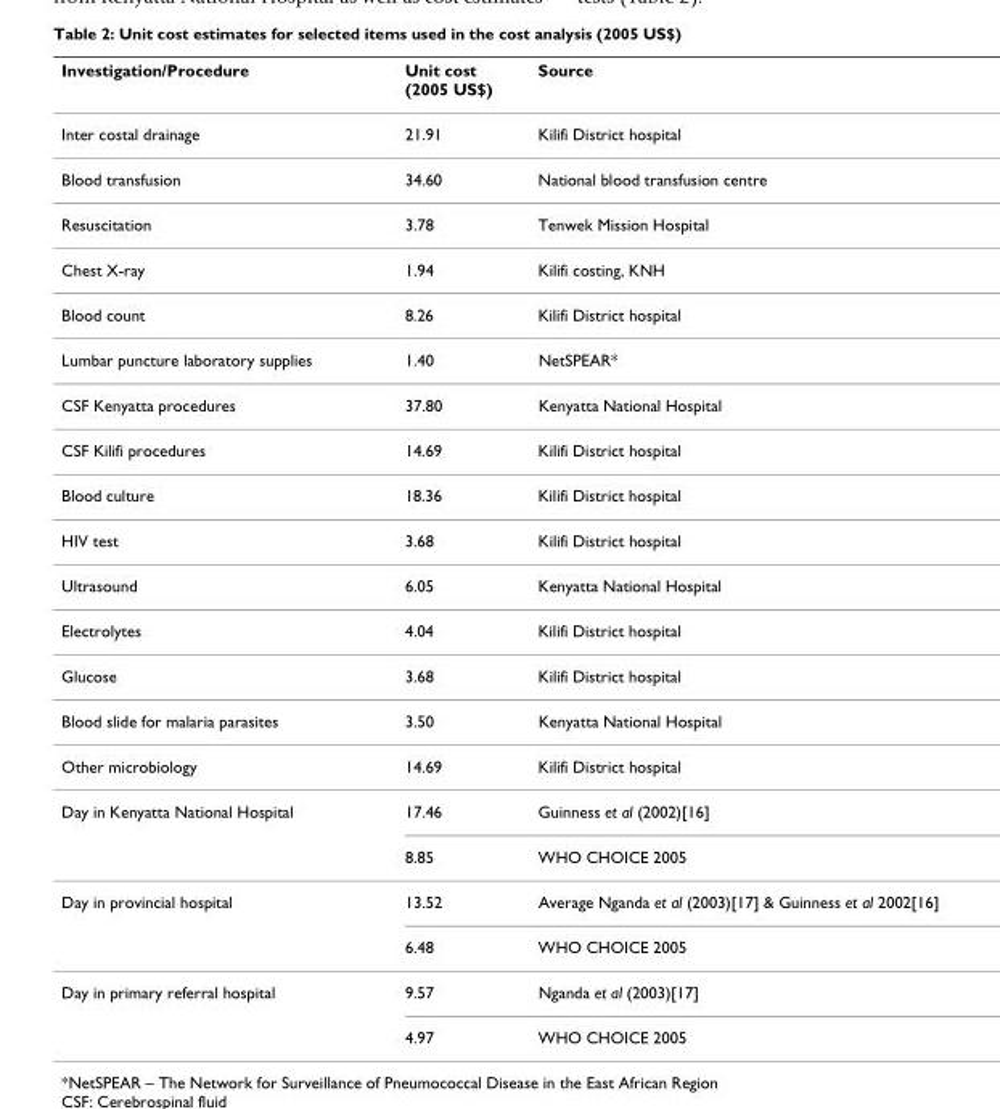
<table><thead><tr><td>Investigation/Procedure</td><td>Unit cost (2005 US$)</td><td>Source</td></tr></thead><tbody><tr><td>Inter costal drainage</td><td>21.91</td><td>Kilifi District hospital</td></tr><tr><td>Blood transfusion</td><td>34.60</td><td>National blood transfusion centre</td></tr><tr><td>Resuscitation</td><td>3.78</td><td>Tenwek Mission Hospital</td></tr><tr><td>Chest X-ray</td><td>1.94</td><td>Kilifi costing, KNH</td></tr><tr><td>Blood count</td><td>8.26</td><td>Kilifi District hospital</td></tr><tr><td>Lumbar puncture laboratory supplies</td><td>1.40</td><td>NetSPEAR*</td></tr><tr><td>CSF Kenyatta procedures</td><td>37.80</td><td>Kenyatta National Hospital</td></tr><tr><td>CSF Kilifi procedures</td><td>14.69</td><td>Kilifi District hospital</td></tr><tr><td>Blood culture</td><td>18.36</td><td>Kilifi District hospital</td></tr><tr><td>HIV test</td><td>3.68</td><td>Kilifi District hospital</td></tr><tr><td>Ultrasound</td><td>6.05</td><td>Kenyatta National Hospital</td></tr><tr><td>Electrolytes</td><td>4.04</td><td>Kilifi District hospital</td></tr><tr><td>Glucose</td><td>3.68</td><td>Kilifi District hospital</td></tr><tr><td>Blood slide for malaria parasites</td><td>3.50</td><td>Kenyatta National Hospital</td></tr><tr><td>Other microbiology</td><td>14.69</td><td>Kilifi District hospital</td></tr><tr><td rowspan="2">Day in Kenyatta National Hospital</td><td>17.46</td><td>Guinness et al (2002)[16]</td></tr><tr><td>8.85</td><td>WHO CHOICE 2005</td></tr><tr><td rowspan="2">Day in provincial hospital</td><td>13.52</td><td>Average Nganda et al (2003)[17] &amp; Guinness et al 2002[16]</td></tr><tr><td>6.48</td><td>WHO CHOICE 2005</td></tr><tr><td rowspan="2">Day in primary referral hospital</td><td>9.57</td><td>Nganda et al (2003)[17]</td></tr><tr><td>4.97</td><td>WHO CHOICE 2005</td></tr></tbody></table>